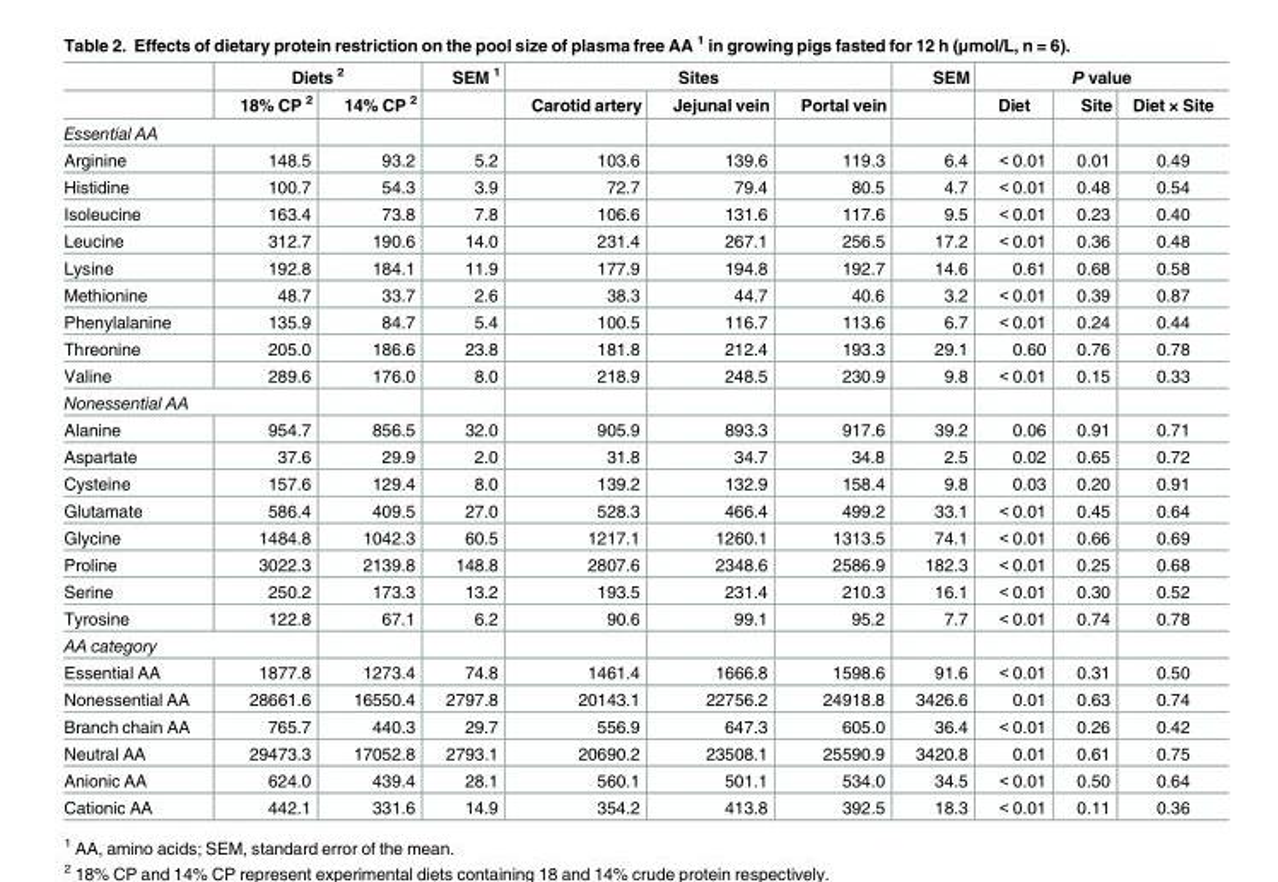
<table><thead><tr><td rowspan="2"></td><td colspan="2">Diets <sup>2</sup></td><td rowspan="2">SEM <sup>1</sup></td><td colspan="3">Sites</td><td rowspan="2">SEM</td><td colspan="3">P value</td></tr><tr><td>18% CP <sup>2</sup></td><td>14% CP <sup>2</sup></td><td>Carotid artery</td><td>Jejunal vein</td><td>Portal vein</td><td>Diet</td><td>Site</td><td>Diet × Site</td></tr></thead><tbody><tr><td colspan="11">Essential AA</td></tr><tr><td>Arginine</td><td>148.5</td><td>93.2</td><td>5.2</td><td>103.6</td><td>139.6</td><td>119.3</td><td>6.4</td><td>&lt; 0.01</td><td>0.01</td><td>0.49</td></tr><tr><td>Histidine</td><td>100.7</td><td>54.3</td><td>3.9</td><td>72.7</td><td>79.4</td><td>80.5</td><td>4.7</td><td>&lt; 0.01</td><td>0.48</td><td>0.54</td></tr><tr><td>Isoleucine</td><td>163.4</td><td>73.8</td><td>7.8</td><td>106.6</td><td>131.6</td><td>117.6</td><td>9.5</td><td>&lt; 0.01</td><td>0.23</td><td>0.40</td></tr><tr><td>Leucine</td><td>312.7</td><td>190.6</td><td>14.0</td><td>231.4</td><td>267.1</td><td>256.5</td><td>17.2</td><td>&lt; 0.01</td><td>0.36</td><td>0.48</td></tr><tr><td>Lysine</td><td>192.8</td><td>184.1</td><td>11.9</td><td>177.9</td><td>194.8</td><td>192.7</td><td>14.6</td><td>0.61</td><td>0.68</td><td>0.58</td></tr><tr><td>Methionine</td><td>48.7</td><td>33.7</td><td>2.6</td><td>38.3</td><td>44.7</td><td>40.6</td><td>3.2</td><td>&lt; 0.01</td><td>0.39</td><td>0.87</td></tr><tr><td>Phenylalanine</td><td>135.9</td><td>84.7</td><td>5.4</td><td>100.5</td><td>116.7</td><td>113.6</td><td>6.7</td><td>&lt; 0.01</td><td>0.24</td><td>0.44</td></tr><tr><td>Threonine</td><td>205.0</td><td>186.6</td><td>23.8</td><td>181.8</td><td>212.4</td><td>193.3</td><td>29.1</td><td>0.60</td><td>0.76</td><td>0.78</td></tr><tr><td>Valine</td><td>289.6</td><td>176.0</td><td>8.0</td><td>218.9</td><td>248.5</td><td>230.9</td><td>9.8</td><td>&lt; 0.01</td><td>0.15</td><td>0.33</td></tr><tr><td colspan="11">Nonessential AA</td></tr><tr><td>Alanine</td><td>954.7</td><td>856.5</td><td>32.0</td><td>905.9</td><td>893.3</td><td>917.6</td><td>39.2</td><td>0.06</td><td>0.91</td><td>0.71</td></tr><tr><td>Aspartate</td><td>37.6</td><td>29.9</td><td>2.0</td><td>31.8</td><td>34.7</td><td>34.8</td><td>2.5</td><td>0.02</td><td>0.65</td><td>0.72</td></tr><tr><td>Cysteine</td><td>157.6</td><td>129.4</td><td>8.0</td><td>139.2</td><td>132.9</td><td>158.4</td><td>9.8</td><td>0.03</td><td>0.20</td><td>0.91</td></tr><tr><td>Glutamate</td><td>586.4</td><td>409.5</td><td>27.0</td><td>528.3</td><td>466.4</td><td>499.2</td><td>33.1</td><td>&lt; 0.01</td><td>0.45</td><td>0.64</td></tr><tr><td>Glycine</td><td>1484.8</td><td>1042.3</td><td>60.5</td><td>1217.1</td><td>1260.1</td><td>1313.5</td><td>74.1</td><td>&lt; 0.01</td><td>0.66</td><td>0.69</td></tr><tr><td>Proline</td><td>3022.3</td><td>2139.8</td><td>148.8</td><td>2807.6</td><td>2348.6</td><td>2586.9</td><td>182.3</td><td>&lt; 0.01</td><td>0.25</td><td>0.68</td></tr><tr><td>Serine</td><td>250.2</td><td>173.3</td><td>13.2</td><td>193.5</td><td>231.4</td><td>210.3</td><td>16.1</td><td>&lt; 0.01</td><td>0.30</td><td>0.52</td></tr><tr><td>Tyrosine</td><td>122.8</td><td>67.1</td><td>6.2</td><td>90.6</td><td>99.1</td><td>95.2</td><td>7.7</td><td>&lt; 0.01</td><td>0.74</td><td>0.78</td></tr><tr><td colspan="11">AA category</td></tr><tr><td>Essential AA</td><td>1877.8</td><td>1273.4</td><td>74.8</td><td>1461.4</td><td>1666.8</td><td>1598.6</td><td>91.6</td><td>&lt; 0.01</td><td>0.31</td><td>0.50</td></tr><tr><td>Nonessential AA</td><td>28661.6</td><td>16550.4</td><td>2797.8</td><td>20143.1</td><td>22756.2</td><td>24918.8</td><td>3426.6</td><td>0.01</td><td>0.63</td><td>0.74</td></tr><tr><td>Branch chain AA</td><td>765.7</td><td>440.3</td><td>29.7</td><td>556.9</td><td>647.3</td><td>605.0</td><td>36.4</td><td>&lt; 0.01</td><td>0.26</td><td>0.42</td></tr><tr><td>Neutral AA</td><td>29473.3</td><td>17052.8</td><td>2793.1</td><td>20690.2</td><td>23508.1</td><td>25590.9</td><td>3420.8</td><td>0.01</td><td>0.61</td><td>0.75</td></tr><tr><td>Anionic AA</td><td>624.0</td><td>439.4</td><td>28.1</td><td>560.1</td><td>501.1</td><td>534.0</td><td>34.5</td><td>&lt; 0.01</td><td>0.50</td><td>0.64</td></tr><tr><td>Cationic AA</td><td>442.1</td><td>331.6</td><td>14.9</td><td>354.2</td><td>413.8</td><td>392.5</td><td>18.3</td><td>&lt; 0.01</td><td>0.11</td><td>0.36</td></tr></tbody></table>